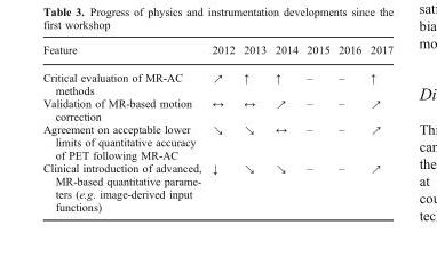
<table><thead><tr><td>Feature</td><td>2012</td><td>2013</td><td>2014</td><td>2015</td><td>2016</td><td>2017</td></tr></thead><tbody><tr><td>Critical evaluation of MR-AC methods</td><td>↗</td><td>↑</td><td>↑</td><td>–</td><td>–</td><td>↑</td></tr><tr><td>Validation of MR-based motion correction</td><td>↔</td><td>↔</td><td>↗</td><td>–</td><td>–</td><td>↗</td></tr><tr><td>Agreement on acceptable lower limits of quantitative accuracy of PET following MR-AC</td><td>↘</td><td>↘</td><td>↔</td><td>–</td><td>–</td><td>↗</td></tr><tr><td>Clinical introduction of advanced, MR-based quantitative parame- ters (e.g. image-derived input functions)</td><td>↓</td><td>↘</td><td>↘</td><td>–</td><td>–</td><td>↗</td></tr></tbody></table>